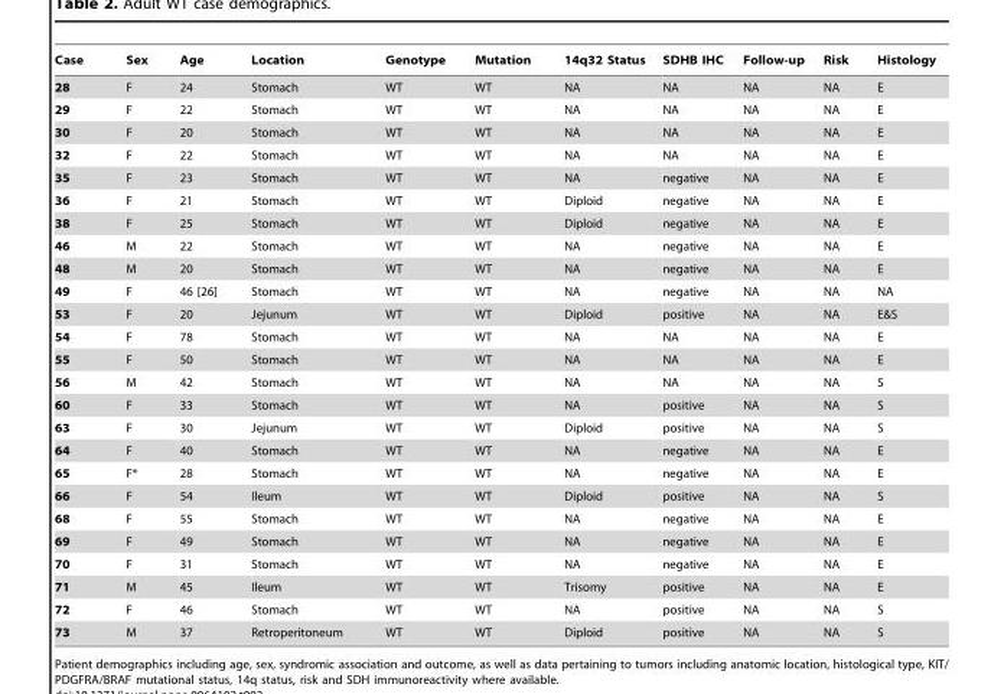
<table><thead><tr><td>Case</td><td>Sex</td><td>Age</td><td>Location</td><td>Genotype</td><td>Mutation</td><td>14q32 Status</td><td>SDHB IHC</td><td>Follow-up</td><td>Risk</td><td>Histology</td></tr></thead><tbody><tr><td>28</td><td>F</td><td>24</td><td>Stomach</td><td>WT</td><td>WT</td><td>NA</td><td>NA</td><td>NA</td><td>NA</td><td>E</td></tr><tr><td>29</td><td>F</td><td>22</td><td>Stomach</td><td>WT</td><td>WT</td><td>NA</td><td>NA</td><td>NA</td><td>NA</td><td>E</td></tr><tr><td>30</td><td>F</td><td>20</td><td>Stomach</td><td>WT</td><td>WT</td><td>NA</td><td>NA</td><td>NA</td><td>NA</td><td>E</td></tr><tr><td>32</td><td>F</td><td>22</td><td>Stomach</td><td>WT</td><td>WT</td><td>NA</td><td>NA</td><td>NA</td><td>NA</td><td>E</td></tr><tr><td>35</td><td>F</td><td>23</td><td>Stomach</td><td>WT</td><td>WT</td><td>NA</td><td>negative</td><td>NA</td><td>NA</td><td>E</td></tr><tr><td>36</td><td>F</td><td>21</td><td>Stomach</td><td>WT</td><td>WT</td><td>Diploid</td><td>negative</td><td>NA</td><td>NA</td><td>E</td></tr><tr><td>38</td><td>F</td><td>25</td><td>Stomach</td><td>WT</td><td>WT</td><td>Diploid</td><td>negative</td><td>NA</td><td>NA</td><td>E</td></tr><tr><td>46</td><td>M</td><td>22</td><td>Stomach</td><td>WT</td><td>WT</td><td>NA</td><td>negative</td><td>NA</td><td>NA</td><td>E</td></tr><tr><td>48</td><td>M</td><td>20</td><td>Stomach</td><td>WT</td><td>WT</td><td>NA</td><td>negative</td><td>NA</td><td>NA</td><td>E</td></tr><tr><td>49</td><td>F</td><td>46 [26]</td><td>Stomach</td><td>WT</td><td>WT</td><td>NA</td><td>negative</td><td>NA</td><td>NA</td><td>NA</td></tr><tr><td>53</td><td>F</td><td>20</td><td>Jejunum</td><td>WT</td><td>WT</td><td>Diploid</td><td>positive</td><td>NA</td><td>NA</td><td>E&amp;S</td></tr><tr><td>54</td><td>F</td><td>78</td><td>Stomach</td><td>WT</td><td>WT</td><td>NA</td><td>NA</td><td>NA</td><td>NA</td><td>E</td></tr><tr><td>55</td><td>F</td><td>50</td><td>Stomach</td><td>WT</td><td>WT</td><td>NA</td><td>NA</td><td>NA</td><td>NA</td><td>E</td></tr><tr><td>56</td><td>M</td><td>42</td><td>Stomach</td><td>WT</td><td>WT</td><td>NA</td><td>NA</td><td>NA</td><td>NA</td><td>S</td></tr><tr><td>60</td><td>F</td><td>33</td><td>Stomach</td><td>WT</td><td>WT</td><td>NA</td><td>positive</td><td>NA</td><td>NA</td><td>S</td></tr><tr><td>63</td><td>F</td><td>30</td><td>Jejunum</td><td>WT</td><td>WT</td><td>Diploid</td><td>positive</td><td>NA</td><td>NA</td><td>S</td></tr><tr><td>64</td><td>F</td><td>40</td><td>Stomach</td><td>WT</td><td>WT</td><td>NA</td><td>negative</td><td>NA</td><td>NA</td><td>E</td></tr><tr><td>65</td><td>F*</td><td>28</td><td>Stomach</td><td>WT</td><td>WT</td><td>NA</td><td>negative</td><td>NA</td><td>NA</td><td>E</td></tr><tr><td>66</td><td>F</td><td>54</td><td>Ileum</td><td>WT</td><td>WT</td><td>Diploid</td><td>positive</td><td>NA</td><td>NA</td><td>S</td></tr><tr><td>68</td><td>F</td><td>55</td><td>Stomach</td><td>WT</td><td>WT</td><td>NA</td><td>negative</td><td>NA</td><td>NA</td><td>E</td></tr><tr><td>69</td><td>F</td><td>49</td><td>Stomach</td><td>WT</td><td>WT</td><td>NA</td><td>negative</td><td>NA</td><td>NA</td><td>E</td></tr><tr><td>70</td><td>F</td><td>31</td><td>Stomach</td><td>WT</td><td>WT</td><td>NA</td><td>negative</td><td>NA</td><td>NA</td><td>E</td></tr><tr><td>71</td><td>M</td><td>45</td><td>Ileum</td><td>WT</td><td>WT</td><td>Trisomy</td><td>positive</td><td>NA</td><td>NA</td><td>E</td></tr><tr><td>72</td><td>F</td><td>46</td><td>Stomach</td><td>WT</td><td>WT</td><td>NA</td><td>positive</td><td>NA</td><td>NA</td><td>S</td></tr><tr><td>73</td><td>M</td><td>37</td><td>Retroperitoneum</td><td>WT</td><td>WT</td><td>Diploid</td><td>positive</td><td>NA</td><td>NA</td><td>S</td></tr></tbody></table>